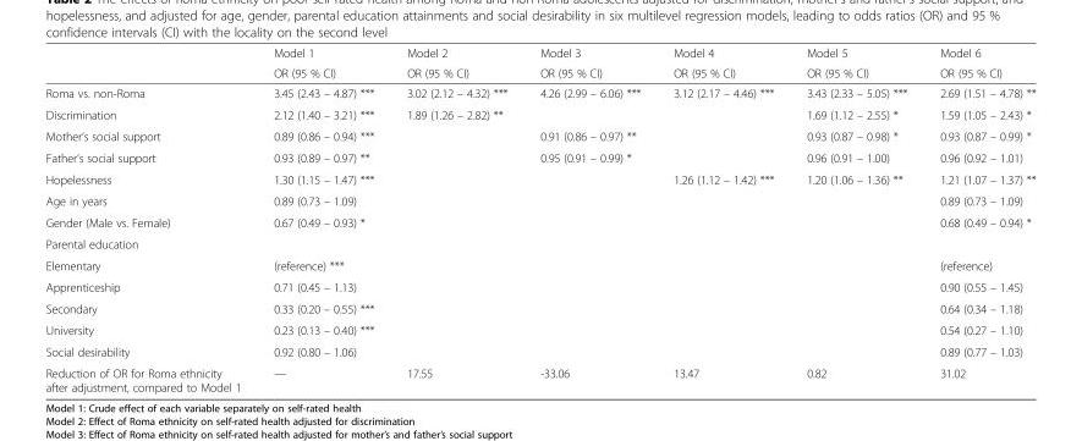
<table><thead><tr><td rowspan="2"></td><td rowspan="2">Model 1 OR (95 % CI)</td><td rowspan="2">Model 2 OR (95 % CI)</td><td rowspan="2">Model 3 OR (95 % CI)</td><td rowspan="2">Model 4 OR (95 % CI)</td><td rowspan="2">Model 5 OR (95 % CI)</td><td rowspan="2">Model 6 OR (95 % CI)</td></tr><tr></tr></thead><tbody><tr><td>Roma vs. non-Roma</td><td>3.45 (2.43 – 4.87) ***</td><td>3.02 (2.12 – 4.32) ***</td><td>4.26 (2.99 – 6.06) ***</td><td>3.12 (2.17 – 4.46) ***</td><td>3.43 (2.33 – 5.05) ***</td><td>2.69 (1.51 – 4.78) **</td></tr><tr><td>Discrimination</td><td>2.12 (1.40 – 3.21) ***</td><td>1.89 (1.26 – 2.82) **</td><td></td><td></td><td>1.69 (1.12 – 2.55) *</td><td>1.59 (1.05 – 2.43) *</td></tr><tr><td>Mother‘s social support</td><td>0.89 (0.86 – 0.94) ***</td><td></td><td>0.91 (0.86 – 0.97) **</td><td></td><td>0.93 (0.87 – 0.98) *</td><td>0.93 (0.87 – 0.99) *</td></tr><tr><td>Father‘s social support</td><td>0.93 (0.89 – 0.97) **</td><td></td><td>0.95 (0.91 – 0.99) *</td><td></td><td>0.96 (0.91 – 1.00)</td><td>0.96 (0.92 – 1.01)</td></tr><tr><td>Hopelessness</td><td>1.30 (1.15 – 1.47) ***</td><td></td><td></td><td>1.26 (1.12 – 1.42) ***</td><td>1.20 (1.06 – 1.36) **</td><td>1.21 (1.07 – 1.37) **</td></tr><tr><td>Age in years</td><td>0.89 (0.73 – 1.09)</td><td></td><td></td><td></td><td></td><td>0.89 (0.73 – 1.09)</td></tr><tr><td>Gender (Male vs. Female)</td><td>0.67 (0.49 – 0.93) *</td><td></td><td></td><td></td><td></td><td>0.68 (0.49 – 0.94) *</td></tr><tr><td colspan="7">Parental education</td></tr><tr><td>Elementary</td><td>(reference) ***</td><td></td><td></td><td></td><td></td><td>(reference)</td></tr><tr><td>Apprenticeship</td><td>0.71 (0.45 – 1.13)</td><td></td><td></td><td></td><td></td><td>0.90 (0.55 – 1.45)</td></tr><tr><td>Secondary</td><td>0.33 (0.20 – 0.55) ***</td><td></td><td></td><td></td><td></td><td>0.64 (0.34 – 1.18)</td></tr><tr><td>University</td><td>0.23 (0.13 – 0.40) ***</td><td></td><td></td><td></td><td></td><td>0.54 (0.27 – 1.10)</td></tr><tr><td>Social desirability</td><td>0.92 (0.80 – 1.06)</td><td></td><td></td><td></td><td></td><td>0.89 (0.77 – 1.03)</td></tr><tr><td>Reduction of OR for Roma ethnicity after adjustment, compared to Model 1</td><td>—</td><td>17.55</td><td>-33.06</td><td>13.47</td><td>0.82</td><td>31.02</td></tr></tbody></table>